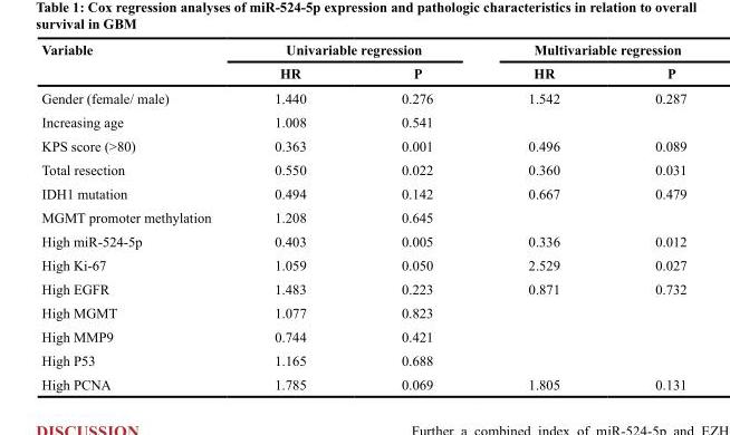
<table><thead><tr><td rowspan="2">Variable</td><td colspan="2">Univariable regression</td><td colspan="2">Multivariable regression</td></tr><tr><td>HR</td><td>P</td><td>HR</td><td>P</td></tr></thead><tbody><tr><td>Gender (female/ male)</td><td>1.440</td><td>0.276</td><td>1.542</td><td>0.287</td></tr><tr><td>Increasing age</td><td>1.008</td><td>0.541</td><td></td><td></td></tr><tr><td>KPS score (&gt;80)</td><td>0.363</td><td>0.001</td><td>0.496</td><td>0.089</td></tr><tr><td>Total resection</td><td>0.550</td><td>0.022</td><td>0.360</td><td>0.031</td></tr><tr><td>IDH1 mutation</td><td>0.494</td><td>0.142</td><td>0.667</td><td>0.479</td></tr><tr><td>MGMT promoter methylation</td><td>1.208</td><td>0.645</td><td></td><td></td></tr><tr><td>High miR-524-5p</td><td>0.403</td><td>0.005</td><td>0.336</td><td>0.012</td></tr><tr><td>High Ki-67</td><td>1.059</td><td>0.050</td><td>2.529</td><td>0.027</td></tr><tr><td>High EGFR</td><td>1.483</td><td>0.223</td><td>0.871</td><td>0.732</td></tr><tr><td>High MGMT</td><td>1.077</td><td>0.823</td><td></td><td></td></tr><tr><td>High MMP9</td><td>0.744</td><td>0.421</td><td></td><td></td></tr><tr><td>High P53</td><td>1.165</td><td>0.688</td><td></td><td></td></tr><tr><td>High PCNA</td><td>1.785</td><td>0.069</td><td>1.805</td><td>0.131</td></tr></tbody></table>